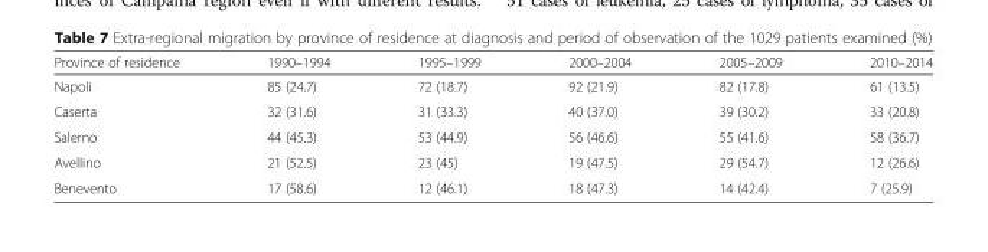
<table><thead><tr><td>Province of residence</td><td>1990–1994</td><td>1995–1999</td><td>2000–2004</td><td>2005–2009</td><td>2010–2014</td></tr></thead><tbody><tr><td>Napoli</td><td>85 (24.7)</td><td>72 (18.7)</td><td>92 (21.9)</td><td>82 (17.8)</td><td>61 (13.5)</td></tr><tr><td>Caserta</td><td>32 (31.6)</td><td>31 (33.3)</td><td>40 (37.0)</td><td>39 (30.2)</td><td>33 (20.8)</td></tr><tr><td>Salerno</td><td>44 (45.3)</td><td>53 (44.9)</td><td>56 (46.6)</td><td>55 (41.6)</td><td>58 (36.7)</td></tr><tr><td>Avellino</td><td>21 (52.5)</td><td>23 (45)</td><td>19 (47.5)</td><td>29 (54.7)</td><td>12 (26.6)</td></tr><tr><td>Benevento</td><td>17 (58.6)</td><td>12 (46.1)</td><td>18 (47.3)</td><td>14 (42.4)</td><td>7 (25.9)</td></tr></tbody></table>